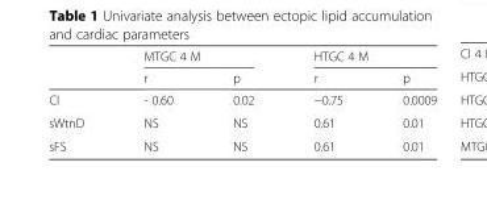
<table><thead><tr><td rowspan="2"></td><td colspan="2">MTGC 4 M</td><td colspan="2">HTGC 4 M</td></tr><tr><td>r</td><td>p</td><td>r</td><td>p</td></tr></thead><tbody><tr><td>CI</td><td>- 0.60</td><td>0.02</td><td>−0.75</td><td>0.0009</td></tr><tr><td>sWtnD</td><td>NS</td><td>NS</td><td>0.61</td><td>0.01</td></tr><tr><td>sFS</td><td>NS</td><td>NS</td><td>0.61</td><td>0.01</td></tr></tbody></table>